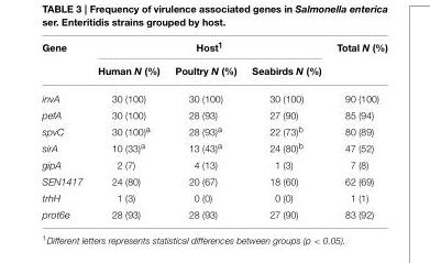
<table><thead><tr><td rowspan="2">Gene</td><td colspan="3">Host<sup>1</sup></td><td rowspan="2">Total N (%)</td></tr><tr><td>Human N (%)</td><td>Poultry N (%)</td><td>Seabirds N (%)</td></tr></thead><tbody><tr><td>invA</td><td>30 (100)</td><td>30 (100)</td><td>30 (100)</td><td>90 (100)</td></tr><tr><td>pefA</td><td>30 (100)</td><td>28 (93)</td><td>27 (90)</td><td>85 (94)</td></tr><tr><td>spvC</td><td>30 (100)<sup>a</sup></td><td>28 (93)<sup>a</sup></td><td>22 (73)<sup>b</sup></td><td>80 (89)</td></tr><tr><td>sirA</td><td>10 (33)<sup>a</sup></td><td>13 (43)<sup>a</sup></td><td>24 (80)<sup>b</sup></td><td>47 (52)</td></tr><tr><td>gipA</td><td>2 (7)</td><td>4 (13)</td><td>1 (3)</td><td>7 (8)</td></tr><tr><td>SEN1417</td><td>24 (80)</td><td>20 (67)</td><td>18 (60)</td><td>62 (69)</td></tr><tr><td>trhH</td><td>1 (3)</td><td>0 (0)</td><td>0 (0)</td><td>1 (1)</td></tr><tr><td>prot6e</td><td>28 (93)</td><td>28 (93)</td><td>27 (90)</td><td>83 (92)</td></tr></tbody></table>